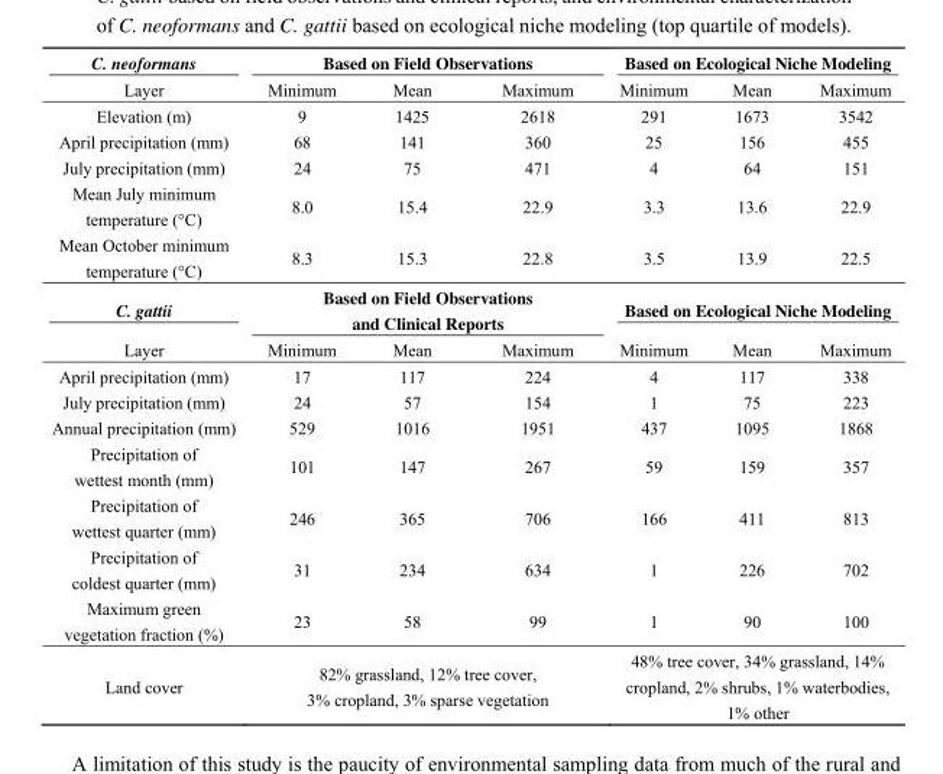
<table><thead><tr><td rowspan="2">C. neoformans Layer</td><td colspan="3">Based on Field Observations</td><td colspan="3">Based on Ecological Niche Modeling</td></tr><tr><td>Minimum</td><td>Mean</td><td>Maximum</td><td>Minimum</td><td>Mean</td><td>Maximum</td></tr></thead><tbody><tr><td>Elevation (m)</td><td>9</td><td>1425</td><td>2618</td><td>291</td><td>1673</td><td>3542</td></tr><tr><td>April precipitation (mm)</td><td>68</td><td>141</td><td>360</td><td>25</td><td>156</td><td>455</td></tr><tr><td>July precipitation (mm)</td><td>24</td><td>75</td><td>471</td><td>4</td><td>64</td><td>151</td></tr><tr><td>Mean July minimum temperature (°C)</td><td>8.0</td><td>15.4</td><td>22.9</td><td>3.3</td><td>13.6</td><td>22.9</td></tr><tr><td>Mean October minimum temperature (°C)</td><td>8.3</td><td>15.3</td><td>22.8</td><td>3.5</td><td>13.9</td><td>22.5</td></tr><tr><td>C. gattii</td><td colspan="3">Based on Field Observations and Clinical Reports</td><td colspan="3">Based on Ecological Niche Modeling</td></tr><tr><td>Layer</td><td>Minimum</td><td>Mean</td><td>Maximum</td><td>Minimum</td><td>Mean</td><td>Maximum</td></tr><tr><td>April precipitation (mm)</td><td>17</td><td>117</td><td>224</td><td>4</td><td>117</td><td>338</td></tr><tr><td>July precipitation (mm)</td><td>24</td><td>57</td><td>154</td><td>1</td><td>75</td><td>223</td></tr><tr><td>Annual precipitation (mm)</td><td>529</td><td>1016</td><td>1951</td><td>437</td><td>1095</td><td>1868</td></tr><tr><td>Precipitation of wettest month (mm)</td><td>101</td><td>147</td><td>267</td><td>59</td><td>159</td><td>357</td></tr><tr><td>Precipitation of wettest quarter (mm)</td><td>246</td><td>365</td><td>706</td><td>166</td><td>411</td><td>813</td></tr><tr><td>Precipitation of coldest quarter (mm)</td><td>31</td><td>234</td><td>634</td><td>1</td><td>226</td><td>702</td></tr><tr><td>Maximum green vegetation fraction (%)</td><td>23</td><td>58</td><td>99</td><td>1</td><td>90</td><td>100</td></tr><tr><td>Land cover</td><td colspan="3">82% grassland, 12% tree cover, 3% cropland, 3% sparse vegetation</td><td colspan="3">48% tree cover, 34% grassland, 14% cropland, 2% shrubs, 1% waterbodies, 1% other</td></tr></tbody></table>